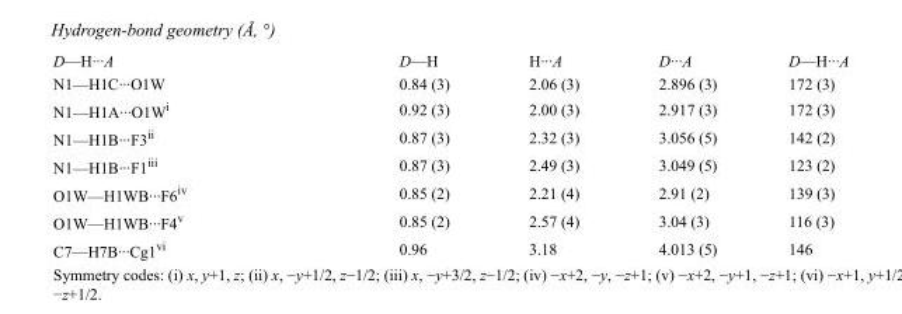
<table><tbody><tr><td>D—H···A</td><td>D—H</td><td>H···A</td><td>D···A</td><td>D—H···A</td></tr><tr><td>N1—H1C···O1W</td><td>0.84 (3)</td><td>2.06 (3)</td><td>2.896 (3)</td><td>172 (3)</td></tr><tr><td>N1—H1A···O1W<sup>i</sup></td><td>0.92 (3)</td><td>2.00 (3)</td><td>2.917 (3)</td><td>172 (3)</td></tr><tr><td>N1—H1B···F3<sup>ii</sup></td><td>0.87 (3)</td><td>2.32 (3)</td><td>3.056 (5)</td><td>142 (2)</td></tr><tr><td>N1—H1B···F1<sup>iii</sup></td><td>0.87 (3)</td><td>2.49 (3)</td><td>3.049 (5)</td><td>123 (2)</td></tr><tr><td>O1W—H1WB···F6<sup>iv</sup></td><td>0.85 (2)</td><td>2.21 (4)</td><td>2.91 (2)</td><td>139 (3)</td></tr><tr><td>O1W—H1WB···F4<sup>v</sup></td><td>0.85 (2)</td><td>2.57 (4)</td><td>3.04 (3)</td><td>116 (3)</td></tr><tr><td>C7—H7B···Cg1<sup>vi</sup></td><td>0.96</td><td>3.18</td><td>4.013 (5)</td><td>146</td></tr></tbody></table>